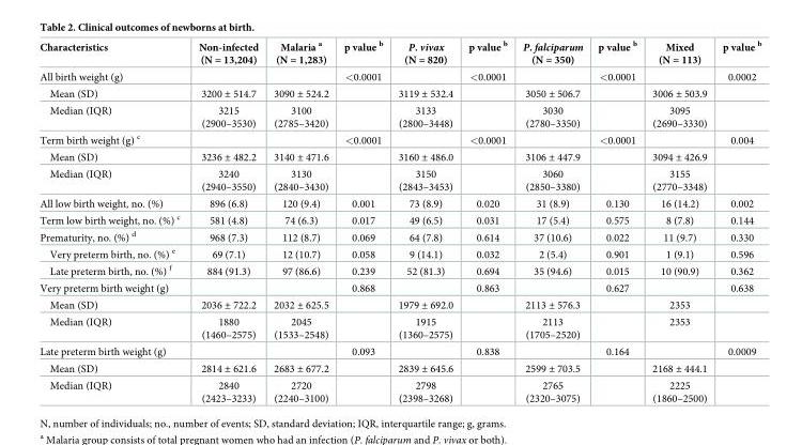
<table><thead><tr><td>Characteristics</td><td>Non-infected (N = 13,204)</td><td>Malaria <sup>a</sup> (N = 1,283)</td><td>p value <sup>b</sup></td><td>P. vivax (N = 820)</td><td>p value <sup>b</sup></td><td>P. falciparum (N = 350)</td><td>p value <sup>b</sup></td><td>Mixed (N = 113)</td><td>p value <sup>b</sup></td></tr></thead><tbody><tr><td>All birth weight (g)</td><td></td><td></td><td>&lt;0.0001</td><td></td><td>&lt;0.0001</td><td></td><td>&lt;0.0001</td><td></td><td>0.0002</td></tr><tr><td>Mean (SD)</td><td>3200 ± 514.7</td><td>3090 ± 524.2</td><td></td><td>3119 ± 532.4</td><td></td><td>3050 ± 506.7</td><td></td><td>3006 ± 503.9</td><td></td></tr><tr><td>Median (IQR)</td><td>3215 (2900–3530)</td><td>3100 (2785–3420)</td><td></td><td>3133 (2800–3448)</td><td></td><td>3030 (2780–3350)</td><td></td><td>3095 (2690–3330)</td><td></td></tr><tr><td>Term birth weight (g) <sup>c</sup></td><td></td><td></td><td>&lt;0.0001</td><td></td><td>&lt;0.0001</td><td></td><td>&lt;0.0001</td><td></td><td>0.004</td></tr><tr><td>Mean (SD)</td><td>3236 ± 482.2</td><td>3140 ± 471.6</td><td></td><td>3160 ± 486.0</td><td></td><td>3106 ± 447.9</td><td></td><td>3094 ± 426.9</td><td></td></tr><tr><td>Median (IQR)</td><td>3240 (2940–3550)</td><td>3130 (2840–3430)</td><td></td><td>3150 (2843–3453)</td><td></td><td>3060 (2850–3380)</td><td></td><td>3155 (2770–3348)</td><td></td></tr><tr><td>All low birth weight, no. (%)</td><td>896 (6.8)</td><td>120 (9.4)</td><td>0.001</td><td>73 (8.9)</td><td>0.020</td><td>31 (8.9)</td><td>0.130</td><td>16 (14.2)</td><td>0.002</td></tr><tr><td>Term low birth weight, no. (%) <sup>c</sup></td><td>581 (4.8)</td><td>74 (6.3)</td><td>0.017</td><td>49 (6.5)</td><td>0.031</td><td>17 (5.4)</td><td>0.575</td><td>8 (7.8)</td><td>0.144</td></tr><tr><td>Prematurity, no. (%) <sup>d</sup></td><td>968 (7.3)</td><td>112 (8.7)</td><td>0.069</td><td>64 (7.8)</td><td>0.614</td><td>37 (10.6)</td><td>0.022</td><td>11 (9.7)</td><td>0.330</td></tr><tr><td>Very preterm birth, no. (%) <sup>e</sup></td><td>69 (7.1)</td><td>12 (10.7)</td><td>0.058</td><td>9 (14.1)</td><td>0.032</td><td>2 (5.4)</td><td>0.901</td><td>1 (9.1)</td><td>0.596</td></tr><tr><td>Late preterm birth, no. (%) <sup>f</sup></td><td>884 (91.3)</td><td>97 (86.6)</td><td>0.239</td><td>52 (81.3)</td><td>0.694</td><td>35 (94.6)</td><td>0.015</td><td>10 (90.9)</td><td>0.362</td></tr><tr><td>Very preterm birth weight (g)</td><td></td><td></td><td>0.868</td><td></td><td>0.863</td><td></td><td>0.627</td><td></td><td>0.638</td></tr><tr><td>Mean (SD)</td><td>2036 ± 722.2</td><td>2032 ± 625.5</td><td></td><td>1979 ± 692.0</td><td></td><td>2113 ± 576.3</td><td></td><td>2353</td><td></td></tr><tr><td>Median (IQR)</td><td>1880 (1460–2575)</td><td>2045 (1533–2548)</td><td></td><td>1915 (1360–2575)</td><td></td><td>2113 (1705–2520)</td><td></td><td>2353</td><td></td></tr><tr><td>Late preterm birth weight (g)</td><td></td><td></td><td>0.093</td><td></td><td>0.838</td><td></td><td>0.164</td><td></td><td>0.0009</td></tr><tr><td>Mean (SD)</td><td>2814 ± 621.6</td><td>2683 ± 677.2</td><td></td><td>2839 ± 645.6</td><td></td><td>2599 ± 703.5</td><td></td><td>2168 ± 444.1</td><td></td></tr><tr><td>Median (IQR)</td><td>2840 (2423–3233)</td><td>2720 (2240–3100)</td><td></td><td>2798 (2398–3268)</td><td></td><td>2765 (2320–3075)</td><td></td><td>2225 (1860–2500)</td><td></td></tr></tbody></table>